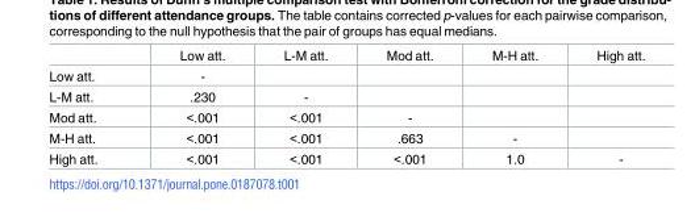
<table><thead><tr><td></td><td>Low att.</td><td>L-M att.</td><td>Mod att.</td><td>M-H att.</td><td>High att.</td></tr></thead><tbody><tr><td>Low att.</td><td>-</td><td></td><td></td><td></td><td></td></tr><tr><td>L-M att.</td><td>.230</td><td>-</td><td></td><td></td><td></td></tr><tr><td>Mod att.</td><td>&lt;.001</td><td>&lt;.001</td><td>-</td><td></td><td></td></tr><tr><td>M-H att.</td><td>&lt;.001</td><td>&lt;.001</td><td>.663</td><td>-</td><td></td></tr><tr><td>High att.</td><td>&lt;.001</td><td>&lt;.001</td><td>&lt;.001</td><td>1.0</td><td>-</td></tr></tbody></table>